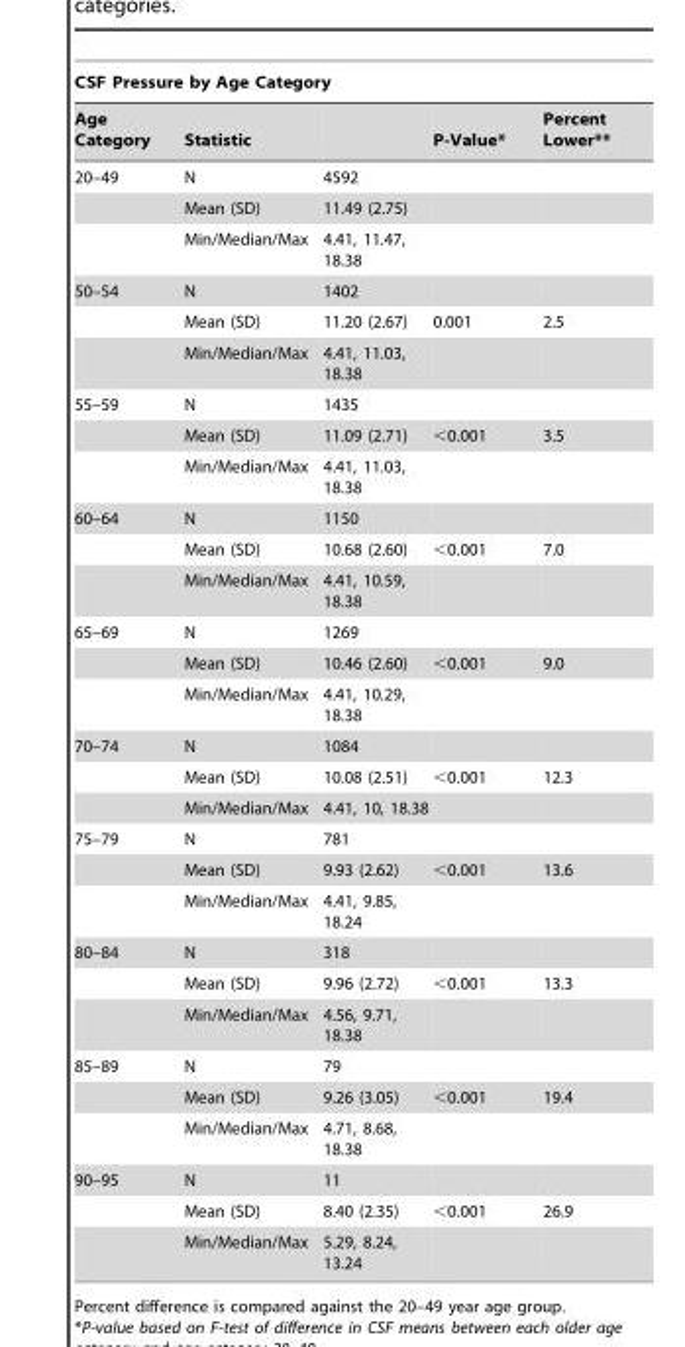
<table><thead><tr><td colspan="5">CSF Pressure by Age Category</td></tr><tr><td>Age Category</td><td>Statistic</td><td></td><td>P-Value*</td><td>Percent Lower**</td></tr></thead><tbody><tr><td rowspan="3">20–49</td><td>N</td><td>4592</td><td></td><td></td></tr><tr><td>Mean (SD)</td><td>11.49 (2.75)</td><td></td><td></td></tr><tr><td>Min/Median/Max</td><td>4.41, 11.47, 18.38</td><td></td><td></td></tr><tr><td rowspan="3">50–54</td><td>N</td><td>1402</td><td></td><td></td></tr><tr><td>Mean (SD)</td><td>11.20 (2.67)</td><td>0.001</td><td>2.5</td></tr><tr><td>Min/Median/Max</td><td>4.41, 11.03, 18.38</td><td></td><td></td></tr><tr><td rowspan="3">55–59</td><td>N</td><td>1435</td><td></td><td></td></tr><tr><td>Mean (SD)</td><td>11.09 (2.71)</td><td>&lt;0.001</td><td>3.5</td></tr><tr><td>Min/Median/Max</td><td>4.41, 11.03, 18.38</td><td></td><td></td></tr><tr><td rowspan="3">60–64</td><td>N</td><td>1150</td><td></td><td></td></tr><tr><td>Mean (SD)</td><td>10.68 (2.60)</td><td>&lt;0.001</td><td>7.0</td></tr><tr><td>Min/Median/Max</td><td>4.41, 10.59, 18.38</td><td></td><td></td></tr><tr><td rowspan="3">65–69</td><td>N</td><td>1269</td><td></td><td></td></tr><tr><td>Mean (SD)</td><td>10.46 (2.60)</td><td>&lt;0.001</td><td>9.0</td></tr><tr><td>Min/Median/Max</td><td>4.41, 10.29, 18.38</td><td></td><td></td></tr><tr><td rowspan="3">70–74</td><td>N</td><td>1084</td><td></td><td></td></tr><tr><td>Mean (SD)</td><td>10.08 (2.51)</td><td>&lt;0.001</td><td>12.3</td></tr><tr><td>Min/Median/Max</td><td>4.41, 10, 18.38</td><td></td><td></td></tr><tr><td rowspan="3">75–79</td><td>N</td><td>781</td><td></td><td></td></tr><tr><td>Mean (SD)</td><td>9.93 (2.62)</td><td>&lt;0.001</td><td>13.6</td></tr><tr><td>Min/Median/Max</td><td>4.41, 9.85, 18.24</td><td></td><td></td></tr><tr><td rowspan="3">80–84</td><td>N</td><td>318</td><td></td><td></td></tr><tr><td>Mean (SD)</td><td>9.96 (2.72)</td><td>&lt;0.001</td><td>13.3</td></tr><tr><td>Min/Median/Max</td><td>4.56, 9.71, 18.38</td><td></td><td></td></tr><tr><td rowspan="3">85–89</td><td>N</td><td>79</td><td></td><td></td></tr><tr><td>Mean (SD)</td><td>9.26 (3.05)</td><td>&lt;0.001</td><td>19.4</td></tr><tr><td>Min/Median/Max</td><td>4.71, 8.68, 18.38</td><td></td><td></td></tr><tr><td rowspan="3">90–95</td><td>N</td><td>11</td><td></td><td></td></tr><tr><td>Mean (SD)</td><td>8.40 (2.35)</td><td>&lt;0.001</td><td>26.9</td></tr><tr><td>Min/Median/Max</td><td>5.29, 8.24, 13.24</td><td></td><td></td></tr></tbody></table>